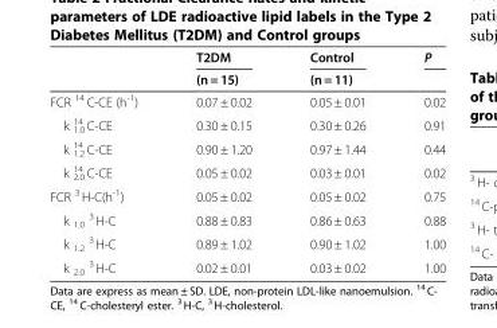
<table><thead><tr><td rowspan="2"></td><td rowspan="2">T2DM (n = 15)</td><td rowspan="2">Control (n = 11)</td><td rowspan="2">P</td></tr><tr></tr></thead><tbody><tr><td>FCR <sup>14</sup> C-CE (h<sup>-1</sup>)</td><td>0.07 ± 0.02</td><td>0.05 ± 0.01</td><td>0.02</td></tr><tr><td>k <sub>1.0</sub> <sup>14</sup> C-CE</td><td>0.30 ± 0.15</td><td>0.30 ± 0.26</td><td>0.91</td></tr><tr><td>k <sub>1.2</sub> <sup>14</sup> C-CE</td><td>0.90 ± 1.20</td><td>0.97 ± 1.44</td><td>0.44</td></tr><tr><td>k <sub>2.0</sub> <sup>14</sup> C-CE</td><td>0.05 ± 0.02</td><td>0.03 ± 0.01</td><td>0.02</td></tr><tr><td>FCR <sup>3</sup> H-C(h<sup>-1</sup>)</td><td>0.05 ± 0.02</td><td>0.05 ± 0.02</td><td>0.75</td></tr><tr><td>k <sub>1.0</sub> <sup>3</sup> H-C</td><td>0.88 ± 0.83</td><td>0.86 ± 0.63</td><td>0.88</td></tr><tr><td>k <sub>1.2</sub> <sup>3</sup> H-C</td><td>0.89 ± 1.02</td><td>0.90 ± 1.02</td><td>1.00</td></tr><tr><td>k <sub>2.0</sub> <sup>3</sup> H-C</td><td>0.02 ± 0.01</td><td>0.03 ± 0.02</td><td>1.00</td></tr></tbody></table>